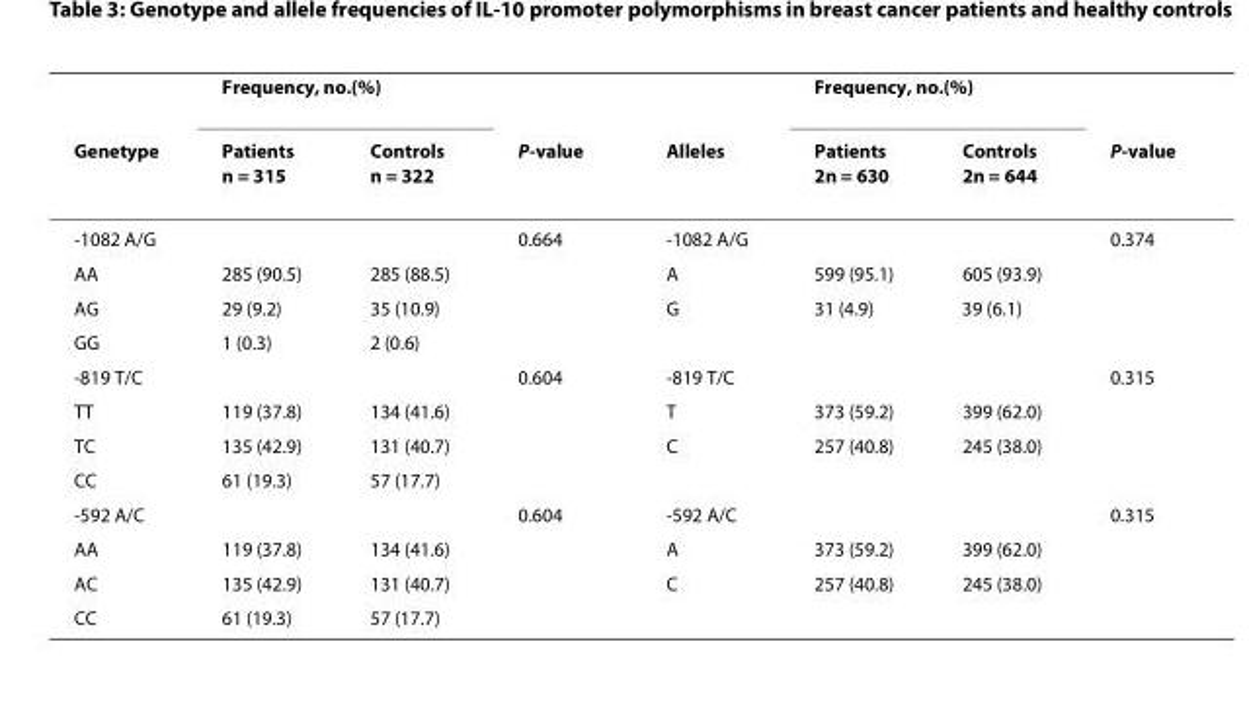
<table><thead><tr><td rowspan="2">Genetype</td><td colspan="2">Frequency, no.(%)</td><td rowspan="2">P-value</td><td rowspan="2">Alleles</td><td colspan="2">Frequency, no.(%)</td><td rowspan="2">P-value</td></tr><tr><td>Patients n = 315</td><td>Controls n = 322</td><td>Patients 2n = 630</td><td>Controls 2n = 644</td></tr></thead><tbody><tr><td>-1082 A/G</td><td></td><td></td><td>0.664</td><td>-1082 A/G</td><td></td><td></td><td>0.374</td></tr><tr><td>AA</td><td>285 (90.5)</td><td>285 (88.5)</td><td></td><td>A</td><td>599 (95.1)</td><td>605 (93.9)</td><td></td></tr><tr><td>AG</td><td>29 (9.2)</td><td>35 (10.9)</td><td></td><td>G</td><td>31 (4.9)</td><td>39 (6.1)</td><td></td></tr><tr><td>GG</td><td>1 (0.3)</td><td>2 (0.6)</td><td></td><td></td><td></td><td></td><td></td></tr><tr><td>-819 T/C</td><td></td><td></td><td>0.604</td><td>-819 T/C</td><td></td><td></td><td>0.315</td></tr><tr><td>TT</td><td>119 (37.8)</td><td>134 (41.6)</td><td></td><td>T</td><td>373 (59.2)</td><td>399 (62.0)</td><td></td></tr><tr><td>TC</td><td>135 (42.9)</td><td>131 (40.7)</td><td></td><td>C</td><td>257 (40.8)</td><td>245 (38.0)</td><td></td></tr><tr><td>CC</td><td>61 (19.3)</td><td>57 (17.7)</td><td></td><td></td><td></td><td></td><td></td></tr><tr><td>-592 A/C</td><td></td><td></td><td>0.604</td><td>-592 A/C</td><td></td><td></td><td>0.315</td></tr><tr><td>AA</td><td>119 (37.8)</td><td>134 (41.6)</td><td></td><td>A</td><td>373 (59.2)</td><td>399 (62.0)</td><td></td></tr><tr><td>AC</td><td>135 (42.9)</td><td>131 (40.7)</td><td></td><td>C</td><td>257 (40.8)</td><td>245 (38.0)</td><td></td></tr><tr><td>CC</td><td>61 (19.3)</td><td>57 (17.7)</td><td></td><td></td><td></td><td></td><td></td></tr></tbody></table>